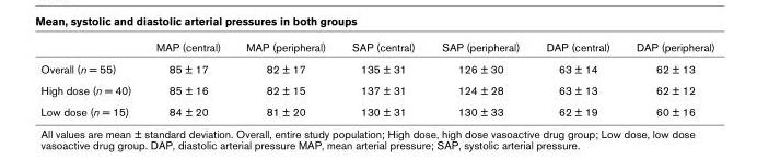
<table><thead><tr><td></td><td>MAP (central)</td><td>MAP (peripheral)</td><td>SAP (central)</td><td>SAP (peripheral)</td><td>DAP (central)</td><td>DAP (peripheral)</td></tr></thead><tbody><tr><td>Overall (n = 55)</td><td>85 ± 17</td><td>82 ± 17</td><td>135 ± 31</td><td>126 ± 30</td><td>63 ± 14</td><td>62 ± 13</td></tr><tr><td>High dose (n = 40)</td><td>85 ± 16</td><td>82 ± 15</td><td>137 ± 31</td><td>124 ± 28</td><td>63 ± 13</td><td>62 ± 12</td></tr><tr><td>Low dose (n = 15)</td><td>84 ± 20</td><td>81 ± 20</td><td>130 ± 31</td><td>130 ± 33</td><td>62 ± 19</td><td>60 ± 16</td></tr></tbody></table>